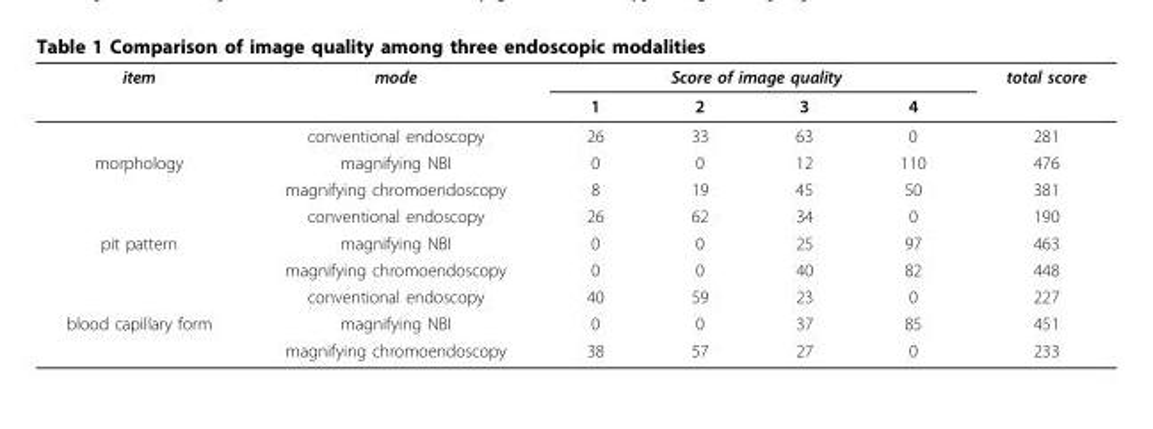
<table><thead><tr><td rowspan="2">item</td><td rowspan="2">mode</td><td colspan="4">Score of image quality</td><td rowspan="2">total score</td></tr><tr><td>1</td><td>2</td><td>3</td><td>4</td></tr></thead><tbody><tr><td></td><td>conventional endoscopy</td><td>26</td><td>33</td><td>63</td><td>0</td><td>281</td></tr><tr><td rowspan="3">morphology</td><td>magnifying NBI</td><td>0</td><td>0</td><td>12</td><td>110</td><td>476</td></tr><tr><td>magnifying chromoendoscopy</td><td>8</td><td>19</td><td>45</td><td>50</td><td>381</td></tr><tr><td>conventional endoscopy</td><td>26</td><td>62</td><td>34</td><td>0</td><td>190</td></tr><tr><td rowspan="3">pit pattern</td><td>magnifying NBI</td><td>0</td><td>0</td><td>25</td><td>97</td><td>463</td></tr><tr><td>magnifying chromoendoscopy</td><td>0</td><td>0</td><td>40</td><td>82</td><td>448</td></tr><tr><td>conventional endoscopy</td><td>40</td><td>59</td><td>23</td><td>0</td><td>227</td></tr><tr><td rowspan="2">blood capillary form</td><td>magnifying NBI</td><td>0</td><td>0</td><td>37</td><td>85</td><td>451</td></tr><tr><td>magnifying chromoendoscopy</td><td>38</td><td>57</td><td>27</td><td>0</td><td>233</td></tr></tbody></table>